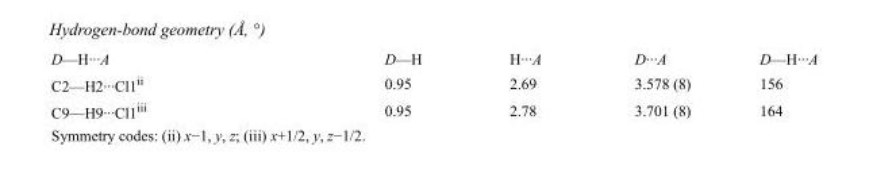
<table><tbody><tr><td>D—H···A</td><td>D—H</td><td>H···A</td><td>D···A</td><td>D—H···A</td></tr><tr><td>C2—H2···Cl1<sup>ii</sup></td><td>0.95</td><td>2.69</td><td>3.578 (8)</td><td>156</td></tr><tr><td>C9—H9···Cl1<sup>iii</sup></td><td>0.95</td><td>2.78</td><td>3.701 (8)</td><td>164</td></tr></tbody></table>